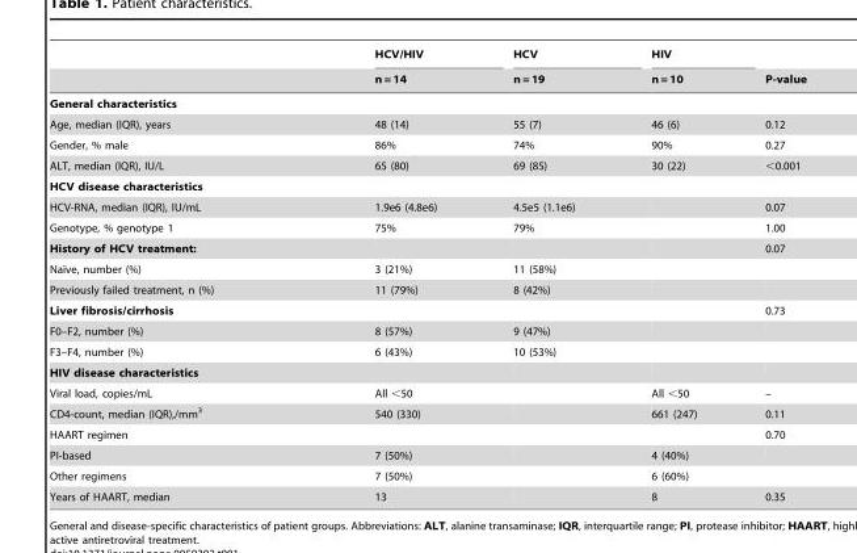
<table><thead><tr><td rowspan="2"></td><td rowspan="2">HCV/HIV n = 14</td><td rowspan="2">HCV n = 19</td><td rowspan="2">HIV n = 10</td><td rowspan="2">P-value</td></tr><tr></tr></thead><tbody><tr><td colspan="5">General characteristics</td></tr><tr><td>Age, median (IQR), years</td><td>48 (14)</td><td>55 (7)</td><td>46 (6)</td><td>0.12</td></tr><tr><td>Gender, % male</td><td>86%</td><td>74%</td><td>90%</td><td>0.27</td></tr><tr><td>ALT, median (IQR), IU/L</td><td>65 (80)</td><td>69 (85)</td><td>30 (22)</td><td>&lt;0.001</td></tr><tr><td colspan="5">HCV disease characteristics</td></tr><tr><td>HCV-RNA, median (IQR), IU/mL</td><td>1.9e6 (4.8e6)</td><td>4.5e5 (1.1e6)</td><td></td><td>0.07</td></tr><tr><td>Genotype, % genotype 1</td><td>75%</td><td>79%</td><td></td><td>1.00</td></tr><tr><td>History of HCV treatment:</td><td></td><td></td><td></td><td>0.07</td></tr><tr><td>Naı¨ve, number (%)</td><td>3 (21%)</td><td>11 (58%)</td><td></td><td></td></tr><tr><td>Previously failed treatment, n (%)</td><td>11 (79%)</td><td>8 (42%)</td><td></td><td></td></tr><tr><td>Liver fibrosis/cirrhosis</td><td></td><td></td><td></td><td>0.73</td></tr><tr><td>F0–F2, number (%)</td><td>8 (57%)</td><td>9 (47%)</td><td></td><td></td></tr><tr><td>F3–F4, number (%)</td><td>6 (43%)</td><td>10 (53%)</td><td></td><td></td></tr><tr><td colspan="5">HIV disease characteristics</td></tr><tr><td>Viral load, copies/mL</td><td>All &lt;50</td><td></td><td>All &lt;50</td><td>–</td></tr><tr><td>CD4-count, median (IQR),/mm<sup>3</sup></td><td>540 (330)</td><td></td><td>661 (247)</td><td>0.11</td></tr><tr><td>HAART regimen</td><td></td><td></td><td></td><td>0.70</td></tr><tr><td>PI-based</td><td>7 (50%)</td><td></td><td>4 (40%)</td><td></td></tr><tr><td>Other regimens</td><td>7 (50%)</td><td></td><td>6 (60%)</td><td></td></tr><tr><td>Years of HAART, median</td><td>13</td><td></td><td>8</td><td>0.35</td></tr></tbody></table>